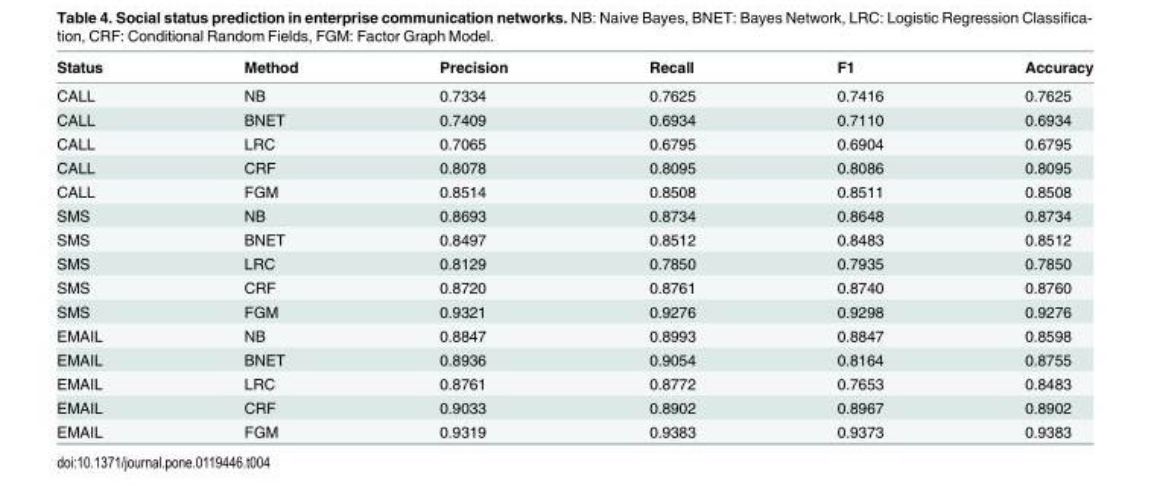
<table><thead><tr><td>Status</td><td>Method</td><td>Precision</td><td>Recall</td><td>F1</td><td>Accuracy</td></tr></thead><tbody><tr><td>CALL</td><td>NB</td><td>0.7334</td><td>0.7625</td><td>0.7416</td><td>0.7625</td></tr><tr><td>CALL</td><td>BNET</td><td>0.7409</td><td>0.6934</td><td>0.7110</td><td>0.6934</td></tr><tr><td>CALL</td><td>LRC</td><td>0.7065</td><td>0.6795</td><td>0.6904</td><td>0.6795</td></tr><tr><td>CALL</td><td>CRF</td><td>0.8078</td><td>0.8095</td><td>0.8086</td><td>0.8095</td></tr><tr><td>CALL</td><td>FGM</td><td>0.8514</td><td>0.8508</td><td>0.8511</td><td>0.8508</td></tr><tr><td>SMS</td><td>NB</td><td>0.8693</td><td>0.8734</td><td>0.8648</td><td>0.8734</td></tr><tr><td>SMS</td><td>BNET</td><td>0.8497</td><td>0.8512</td><td>0.8483</td><td>0.8512</td></tr><tr><td>SMS</td><td>LRC</td><td>0.8129</td><td>0.7850</td><td>0.7935</td><td>0.7850</td></tr><tr><td>SMS</td><td>CRF</td><td>0.8720</td><td>0.8761</td><td>0.8740</td><td>0.8760</td></tr><tr><td>SMS</td><td>FGM</td><td>0.9321</td><td>0.9276</td><td>0.9298</td><td>0.9276</td></tr><tr><td>EMAIL</td><td>NB</td><td>0.8847</td><td>0.8993</td><td>0.8847</td><td>0.8598</td></tr><tr><td>EMAIL</td><td>BNET</td><td>0.8936</td><td>0.9054</td><td>0.8164</td><td>0.8755</td></tr><tr><td>EMAIL</td><td>LRC</td><td>0.8761</td><td>0.8772</td><td>0.7653</td><td>0.8483</td></tr><tr><td>EMAIL</td><td>CRF</td><td>0.9033</td><td>0.8902</td><td>0.8967</td><td>0.8902</td></tr><tr><td>EMAIL</td><td>FGM</td><td>0.9319</td><td>0.9383</td><td>0.9373</td><td>0.9383</td></tr></tbody></table>